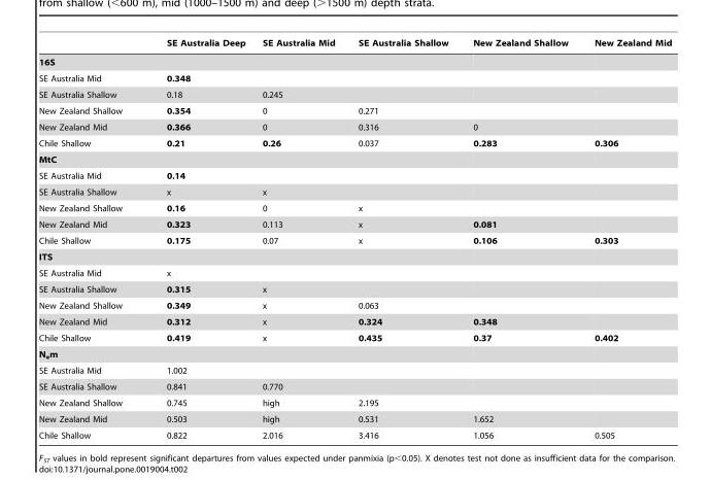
<table><thead><tr><td></td><td>SE Australia Deep</td><td>SE Australia Mid</td><td>SE Australia Shallow</td><td>New Zealand Shallow</td><td>New Zealand Mid</td></tr></thead><tbody><tr><td colspan="6">16S</td></tr><tr><td>SE Australia Mid</td><td>0.348</td><td></td><td></td><td></td><td></td></tr><tr><td>SE Australia Shallow</td><td>0.18</td><td>0.245</td><td></td><td></td><td></td></tr><tr><td>New Zealand Shallow</td><td>0.354</td><td>0</td><td>0.271</td><td></td><td></td></tr><tr><td>New Zealand Mid</td><td>0.366</td><td>0</td><td>0.316</td><td>0</td><td></td></tr><tr><td>Chile Shallow</td><td>0.21</td><td>0.26</td><td>0.037</td><td>0.283</td><td>0.306</td></tr><tr><td colspan="6">MtC</td></tr><tr><td>SE Australia Mid</td><td>0.14</td><td></td><td></td><td></td><td></td></tr><tr><td>SE Australia Shallow</td><td>x</td><td>x</td><td></td><td></td><td></td></tr><tr><td>New Zealand Shallow</td><td>0.16</td><td>0</td><td>x</td><td></td><td></td></tr><tr><td>New Zealand Mid</td><td>0.323</td><td>0.113</td><td>x</td><td>0.081</td><td></td></tr><tr><td>Chile Shallow</td><td>0.175</td><td>0.07</td><td>x</td><td>0.106</td><td>0.303</td></tr><tr><td colspan="6">ITS</td></tr><tr><td>SE Australia Mid</td><td>x</td><td></td><td></td><td></td><td></td></tr><tr><td>SE Australia Shallow</td><td>0.315</td><td>x</td><td></td><td></td><td></td></tr><tr><td>New Zealand Shallow</td><td>0.349</td><td>x</td><td>0.063</td><td></td><td></td></tr><tr><td>New Zealand Mid</td><td>0.312</td><td>x</td><td>0.324</td><td>0.348</td><td></td></tr><tr><td>Chile Shallow</td><td>0.419</td><td>x</td><td>0.435</td><td>0.37</td><td>0.402</td></tr><tr><td colspan="6">N<sub>e</sub>m</td></tr><tr><td>SE Australia Mid</td><td>1.002</td><td></td><td></td><td></td><td></td></tr><tr><td>SE Australia Shallow</td><td>0.841</td><td>0.770</td><td></td><td></td><td></td></tr><tr><td>New Zealand Shallow</td><td>0.745</td><td>high</td><td>2.195</td><td></td><td></td></tr><tr><td>New Zealand Mid</td><td>0.503</td><td>high</td><td>0.531</td><td>1.652</td><td></td></tr><tr><td>Chile Shallow</td><td>0.822</td><td>2.016</td><td>3.416</td><td>1.056</td><td>0.505</td></tr></tbody></table>